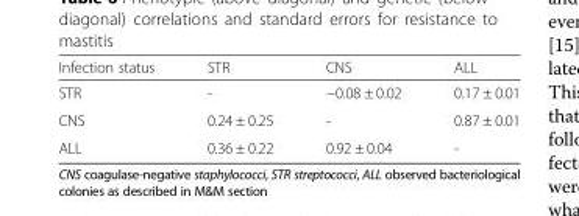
<table><thead><tr><td>Infection status</td><td>STR</td><td>CNS</td><td>ALL</td></tr></thead><tbody><tr><td>STR</td><td>-</td><td>−0.08 ± 0.02</td><td>0.17 ± 0.01</td></tr><tr><td>CNS</td><td>0.24 ± 0.25</td><td>-</td><td>0.87 ± 0.01</td></tr><tr><td>ALL</td><td>0.36 ± 0.22</td><td>0.92 ± 0.04</td><td>-</td></tr></tbody></table>